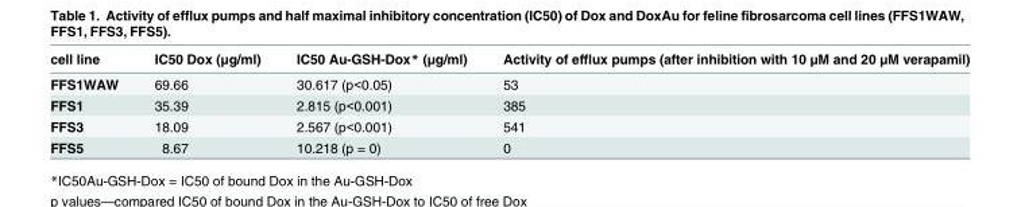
<table><thead><tr><td>cell line</td><td>IC50 Dox (μg/ml)</td><td>IC50 Au-GSH-Dox* (μg/ml)</td><td>Activity of efflux pumps (after inhibition with 10 μM and 20 μM verapamil)</td></tr></thead><tbody><tr><td>FFS1WAW</td><td>69.66</td><td>30.617 (p&lt;0.05)</td><td>53</td></tr><tr><td>FFS1</td><td>35.39</td><td>2.815 (p&lt;0.001)</td><td>385</td></tr><tr><td>FFS3</td><td>18.09</td><td>2.567 (p&lt;0.001)</td><td>541</td></tr><tr><td>FFS5</td><td>8.67</td><td>10.218 (p = 0)</td><td>0</td></tr></tbody></table>